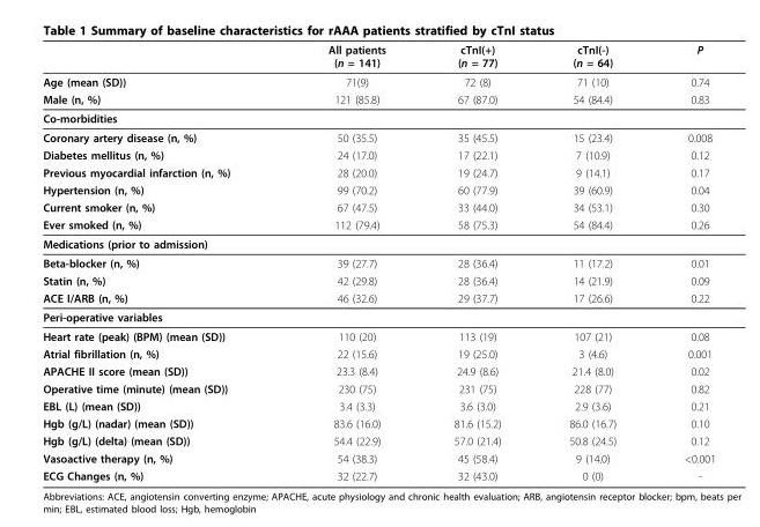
<table><thead><tr><td></td><td>All patients (n = 141)</td><td>cTnI(+) (n = 77)</td><td>cTnI(-) (n = 64)</td><td>P</td></tr></thead><tbody><tr><td>Age (mean (SD))</td><td>71(9)</td><td>72 (8)</td><td>71 (10)</td><td>0.74</td></tr><tr><td>Male (n, %)</td><td>121 (85.8)</td><td>67 (87.0)</td><td>54 (84.4)</td><td>0.83</td></tr><tr><td colspan="5">Co-morbidities</td></tr><tr><td>Coronary artery disease (n, %)</td><td>50 (35.5)</td><td>35 (45.5)</td><td>15 (23.4)</td><td>0.008</td></tr><tr><td>Diabetes mellitus (n, %)</td><td>24 (17.0)</td><td>17 (22.1)</td><td>7 (10.9)</td><td>0.12</td></tr><tr><td>Previous myocardial infarction (n, %)</td><td>28 (20.0)</td><td>19 (24.7)</td><td>9 (14.1)</td><td>0.17</td></tr><tr><td>Hypertension (n, %)</td><td>99 (70.2)</td><td>60 (77.9)</td><td>39 (60.9)</td><td>0.04</td></tr><tr><td>Current smoker (n, %)</td><td>67 (47.5)</td><td>33 (44.0)</td><td>34 (53.1)</td><td>0.30</td></tr><tr><td>Ever smoked (n, %)</td><td>112 (79.4)</td><td>58 (75.3)</td><td>54 (84.4)</td><td>0.26</td></tr><tr><td colspan="5">Medications (prior to admission)</td></tr><tr><td>Beta-blocker (n, %)</td><td>39 (27.7)</td><td>28 (36.4)</td><td>11 (17.2)</td><td>0.01</td></tr><tr><td>Statin (n, %)</td><td>42 (29.8)</td><td>28 (36.4)</td><td>14 (21.9)</td><td>0.09</td></tr><tr><td>ACE I/ARB (n, %)</td><td>46 (32.6)</td><td>29 (37.7)</td><td>17 (26.6)</td><td>0.22</td></tr><tr><td colspan="5">Peri-operative variables</td></tr><tr><td>Heart rate (peak) (BPM) (mean (SD))</td><td>110 (20)</td><td>113 (19)</td><td>107 (21)</td><td>0.08</td></tr><tr><td>Atrial fibrillation (n, %)</td><td>22 (15.6)</td><td>19 (25.0)</td><td>3 (4.6)</td><td>0.001</td></tr><tr><td>APACHE II score (mean (SD))</td><td>23.3 (8.4)</td><td>24.9 (8.6)</td><td>21.4 (8.0)</td><td>0.02</td></tr><tr><td>Operative time (minute) (mean (SD))</td><td>230 (75)</td><td>231 (75)</td><td>228 (77)</td><td>0.82</td></tr><tr><td>EBL (L) (mean (SD))</td><td>3.4 (3.3)</td><td>3.6 (3.0)</td><td>2.9 (3.6)</td><td>0.21</td></tr><tr><td>Hgb (g/L) (nadar) (mean (SD))</td><td>83.6 (16.0)</td><td>81.6 (15.2)</td><td>86.0 (16.7)</td><td>0.10</td></tr><tr><td>Hgb (g/L) (delta) (mean (SD))</td><td>54.4 (22.9)</td><td>57.0 (21.4)</td><td>50.8 (24.5)</td><td>0.12</td></tr><tr><td>Vasoactive therapy (n, %)</td><td>54 (38.3)</td><td>45 (58.4)</td><td>9 (14.0)</td><td>&lt;0.001</td></tr><tr><td>ECG Changes (n, %)</td><td>32 (22.7)</td><td>32 (43.0)</td><td>0 (0)</td><td>-</td></tr></tbody></table>